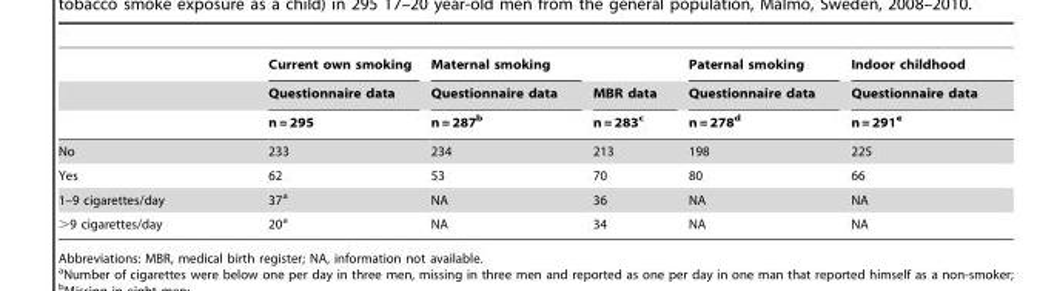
<table><thead><tr><td rowspan="3"></td><td rowspan="3">Current own smoking Questionnaire data n = 295</td><td rowspan="3">Maternal smoking Questionnaire data n = 287<sup>b</sup></td><td rowspan="3">MBR data n = 283<sup>c</sup></td><td rowspan="3">Paternal smoking Questionnaire data n = 278<sup>d</sup></td><td rowspan="3">Indoor childhood Questionnaire data n = 291<sup>e</sup></td></tr><tr></tr><tr></tr></thead><tbody><tr><td>No</td><td>233</td><td>234</td><td>213</td><td>198</td><td>225</td></tr><tr><td>Yes</td><td>62</td><td>53</td><td>70</td><td>80</td><td>66</td></tr><tr><td>1–9 cigarettes/day</td><td>37<sup>a</sup></td><td>NA</td><td>36</td><td>NA</td><td>NA</td></tr><tr><td>&gt;9 cigarettes/day</td><td>20<sup>a</sup></td><td>NA</td><td>34</td><td>NA</td><td>NA</td></tr></tbody></table>